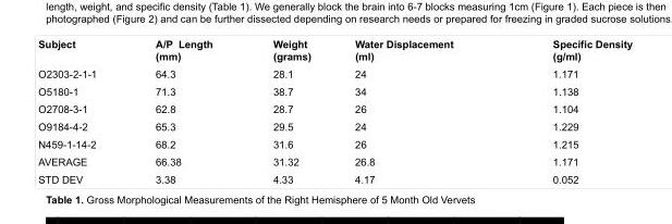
<table><tbody><tr><td>Subject</td><td>A/P Length (mm)</td><td>Weight (grams)</td><td>Water Displacement (ml)</td><td>Specific Density (g/ml)</td></tr><tr><td>O2303-2-1-1</td><td>64.3</td><td>28.1</td><td>24</td><td>1.171</td></tr><tr><td>O5180-1</td><td>71.3</td><td>38.7</td><td>34</td><td>1.138</td></tr><tr><td>O2708-3-1</td><td>62.8</td><td>28.7</td><td>26</td><td>1.104</td></tr><tr><td>O9184-4-2</td><td>65.3</td><td>29.5</td><td>24</td><td>1.229</td></tr><tr><td>N459-1-14-2</td><td>68.2</td><td>31.6</td><td>26</td><td>1.215</td></tr><tr><td>AVERAGE</td><td>66.38</td><td>31.32</td><td>26.8</td><td>1.171</td></tr><tr><td>STD DEV</td><td>3.38</td><td>4.33</td><td>4.17</td><td>0.052</td></tr></tbody></table>